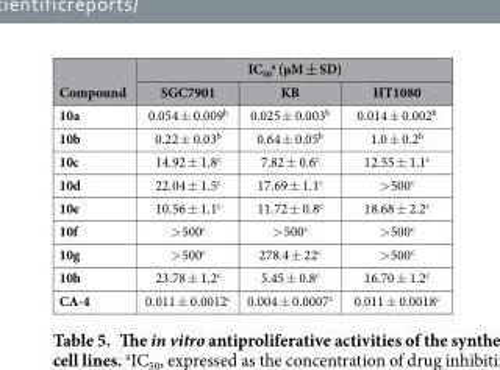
<table><thead><tr><td rowspan="2">Compound</td><td colspan="3">IC<sub>50</sub> <sup>a</sup> (μM ± SD)</td></tr><tr><td>SGC7901</td><td>KB</td><td>HT1080</td></tr></thead><tbody><tr><td>10a</td><td>0.054 ± 0.009<sup>b</sup></td><td>0.025 ± 0.003<sup>b</sup></td><td>0.014 ± 0.002<sup>b</sup></td></tr><tr><td>10b</td><td>0.22 ± 0.03<sup>b</sup></td><td>0.64 ± 0.05<sup>b</sup></td><td>1.0 ± 0.2<sup>b</sup></td></tr><tr><td>10c</td><td>14.92 ± 1.8<sup>c</sup></td><td>7.82 ± 0.6<sup>c</sup></td><td>12.55 ± 1.1<sup>c</sup></td></tr><tr><td>10d</td><td>22.04 ± 1.5<sup>c</sup></td><td>17.69 ± 1.1<sup>c</sup></td><td>&gt; 500<sup>c</sup></td></tr><tr><td>10e</td><td>10.56 ± 1.1<sup>c</sup></td><td>11.72 ± 0.8<sup>c</sup></td><td>18.68 ± 2.2<sup>c</sup></td></tr><tr><td>10f</td><td>&gt; 500<sup>c</sup></td><td>&gt; 500<sup>c</sup></td><td>&gt; 500<sup>c</sup></td></tr><tr><td>10g</td><td>&gt; 500<sup>c</sup></td><td>278.4 ± 22<sup>c</sup></td><td>&gt; 500<sup>c</sup></td></tr><tr><td>10h</td><td>23.78 ± 1.2<sup>c</sup></td><td>5.45 ± 0.8<sup>c</sup></td><td>16.70 ± 1.2<sup>c</sup></td></tr><tr><td>CA-4</td><td>0.011 ± 0.0012<sup>c</sup></td><td>0.004 ± 0.0007<sup>c</sup></td><td>0.011 ± 0.0018<sup>c</sup></td></tr></tbody></table>